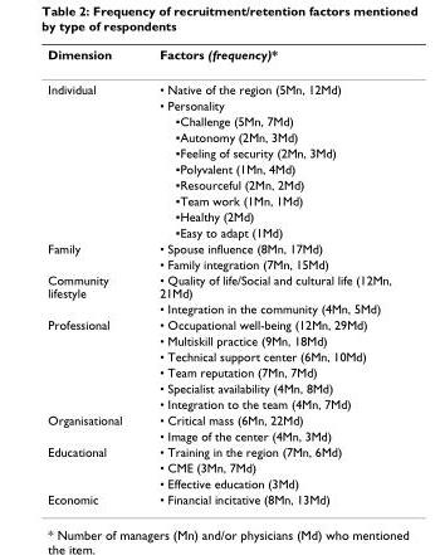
<table><thead><tr><td>Dimension</td><td>Factors (frequency)*</td></tr></thead><tbody><tr><td rowspan="10">Individual</td><td>• Native of the region (5Mn, 12Md)</td></tr><tr><td>• Personality</td></tr><tr><td>▪Challenge (5Mn, 7Md)</td></tr><tr><td>▪Autonomy (2Mn, 3Md)</td></tr><tr><td>▪Feeling of security (2Mn, 3Md)</td></tr><tr><td>▪Polyvalent (1Mn, 4Md)</td></tr><tr><td>▪Resourceful (2Mn, 2Md)</td></tr><tr><td>▪Team work (1Mn, 1Md)</td></tr><tr><td>▪Healthy (2Md)</td></tr><tr><td>▪Easy to adapt (1Md)</td></tr><tr><td rowspan="2">Family</td><td>• Spouse influence (8Mn, 17Md)</td></tr><tr><td>• Family integration (7Mn, 15Md)</td></tr><tr><td rowspan="2">Community lifestyle</td><td>• Quality of life/Social and cultural life (12Mn, 21Md)</td></tr><tr><td>• Integration in the community (4Mn, 5Md)</td></tr><tr><td rowspan="6">Professional</td><td>• Occupational well-being (12Mn, 29Md)</td></tr><tr><td>• Multiskill practice (9Mn, 18Md)</td></tr><tr><td>• Technical support center (6Mn, 10Md)</td></tr><tr><td>• Team reputation (7Mn, 7Md)</td></tr><tr><td>• Specialist availability (4Mn, 8Md)</td></tr><tr><td>• Integration to the team (4Mn, 7Md)</td></tr><tr><td rowspan="2">Organisational</td><td>• Critical mass (6Mn, 22Md)</td></tr><tr><td>• Image of the center (4Mn, 3Md)</td></tr><tr><td rowspan="3">Educational</td><td>• Training in the region (7Mn, 6Md)</td></tr><tr><td>• CME (3Mn, 7Md)</td></tr><tr><td>• Effective education (3Md)</td></tr><tr><td>Economic</td><td>• Financial incitative (8Mn, 13Md)</td></tr></tbody></table>